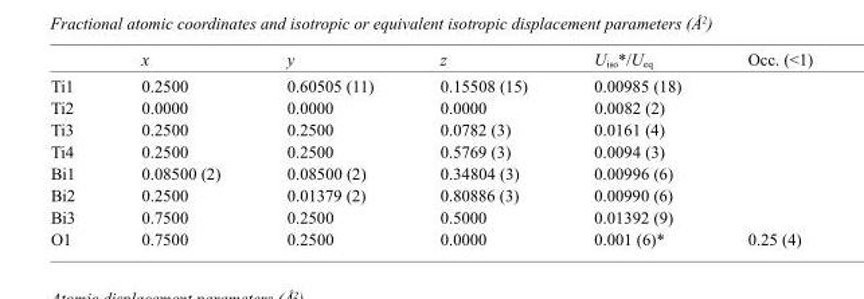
<table><thead><tr><td></td><td>x</td><td>y</td><td>z</td><td>U<sub>iso</sub>*/U<sub>eq</sub></td><td>Occ. (&lt;1)</td></tr></thead><tbody><tr><td>Ti1</td><td>0.2500</td><td>0.60505 (11)</td><td>0.15508 (15)</td><td>0.00985 (18)</td><td></td></tr><tr><td>Ti2</td><td>0.0000</td><td>0.0000</td><td>0.0000</td><td>0.0082 (2)</td><td></td></tr><tr><td>Ti3</td><td>0.2500</td><td>0.2500</td><td>0.0782 (3)</td><td>0.0161 (4)</td><td></td></tr><tr><td>Ti4</td><td>0.2500</td><td>0.2500</td><td>0.5769 (3)</td><td>0.0094 (3)</td><td></td></tr><tr><td>Bi1</td><td>0.08500 (2)</td><td>0.08500 (2)</td><td>0.34804 (3)</td><td>0.00996 (6)</td><td></td></tr><tr><td>Bi2</td><td>0.2500</td><td>0.01379 (2)</td><td>0.80886 (3)</td><td>0.00990 (6)</td><td></td></tr><tr><td>Bi3</td><td>0.7500</td><td>0.2500</td><td>0.5000</td><td>0.01392 (9)</td><td></td></tr><tr><td>O1</td><td>0.7500</td><td>0.2500</td><td>0.0000</td><td>0.001 (6)*</td><td>0.25 (4)</td></tr></tbody></table>